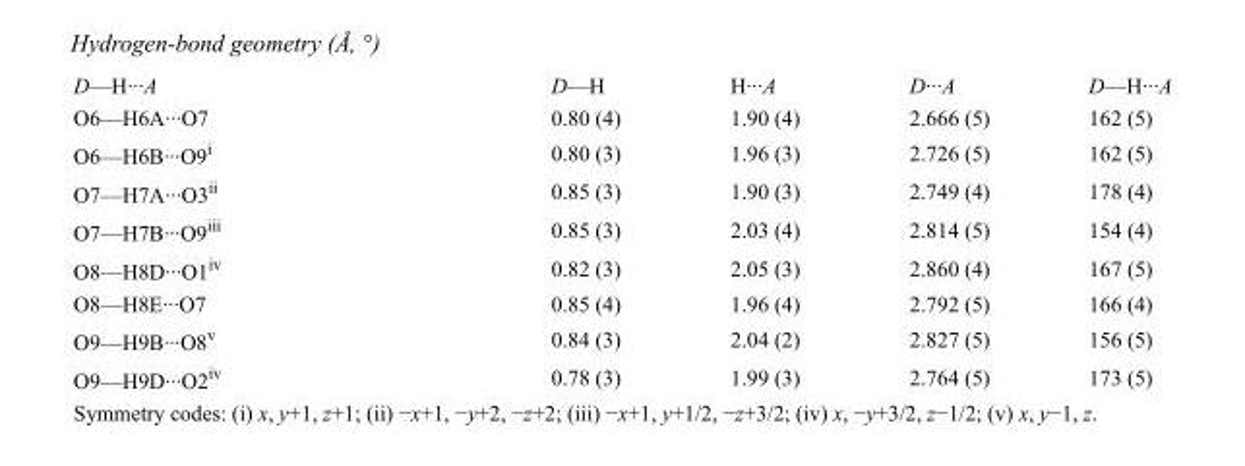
<table><tbody><tr><td>D—H···A</td><td>D—H</td><td>H···A</td><td>D···A</td><td>D—H···A</td></tr><tr><td>O6—H6A···O7</td><td>0.80 (4)</td><td>1.90 (4)</td><td>2.666 (5)</td><td>162 (5)</td></tr><tr><td>O6—H6B···O9<sup>i</sup></td><td>0.80 (3)</td><td>1.96 (3)</td><td>2.726 (5)</td><td>162 (5)</td></tr><tr><td>O7—H7A···O3<sup>ii</sup></td><td>0.85 (3)</td><td>1.90 (3)</td><td>2.749 (4)</td><td>178 (4)</td></tr><tr><td>O7—H7B···O9<sup>iii</sup></td><td>0.85 (3)</td><td>2.03 (4)</td><td>2.814 (5)</td><td>154 (4)</td></tr><tr><td>O8—H8D···O1<sup>iv</sup></td><td>0.82 (3)</td><td>2.05 (3)</td><td>2.860 (4)</td><td>167 (5)</td></tr><tr><td>O8—H8E···O7</td><td>0.85 (4)</td><td>1.96 (4)</td><td>2.792 (5)</td><td>166 (4)</td></tr><tr><td>O9—H9B···O8<sup>v</sup></td><td>0.84 (3)</td><td>2.04 (2)</td><td>2.827 (5)</td><td>156 (5)</td></tr><tr><td>O9—H9D···O2<sup>iv</sup></td><td>0.78 (3)</td><td>1.99 (3)</td><td>2.764 (5)</td><td>173 (5)</td></tr></tbody></table>